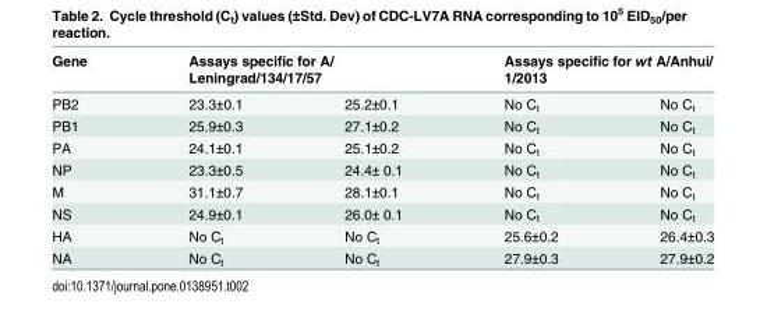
<table><thead><tr><td rowspan="2">Gene PB2</td><td colspan="2">Assays specific for A/ Leningrad/134/17/57</td><td colspan="2">Assays specific for wt A/Anhui/ 1/2013</td></tr><tr><td>23.3±0.1</td><td>25.2±0.1</td><td>No C<sub>t</sub></td><td>No C<sub>t</sub></td></tr></thead><tbody><tr><td>PB1</td><td>25.9±0.3</td><td>27.1±0.2</td><td>No C<sub>t</sub></td><td>No C<sub>t</sub></td></tr><tr><td>PA</td><td>24.1±0.1</td><td>25.1±0.2</td><td>No C<sub>t</sub></td><td>No C<sub>t</sub></td></tr><tr><td>NP</td><td>23.3±0.5</td><td>24.4± 0.1</td><td>No C<sub>t</sub></td><td>No C<sub>t</sub></td></tr><tr><td>M</td><td>31.1±0.7</td><td>28.1±0.1</td><td>No C<sub>t</sub></td><td>No C<sub>t</sub></td></tr><tr><td>NS</td><td>24.9±0.1</td><td>26.0± 0.1</td><td>No C<sub>t</sub></td><td>No C<sub>t</sub></td></tr><tr><td>HA</td><td>No C<sub>t</sub></td><td>No C<sub>t</sub></td><td>25.6±0.2</td><td>26.4±0.3</td></tr><tr><td>NA</td><td>No C<sub>t</sub></td><td>No C<sub>t</sub></td><td>27.9±0.3</td><td>27.9±0.2</td></tr></tbody></table>